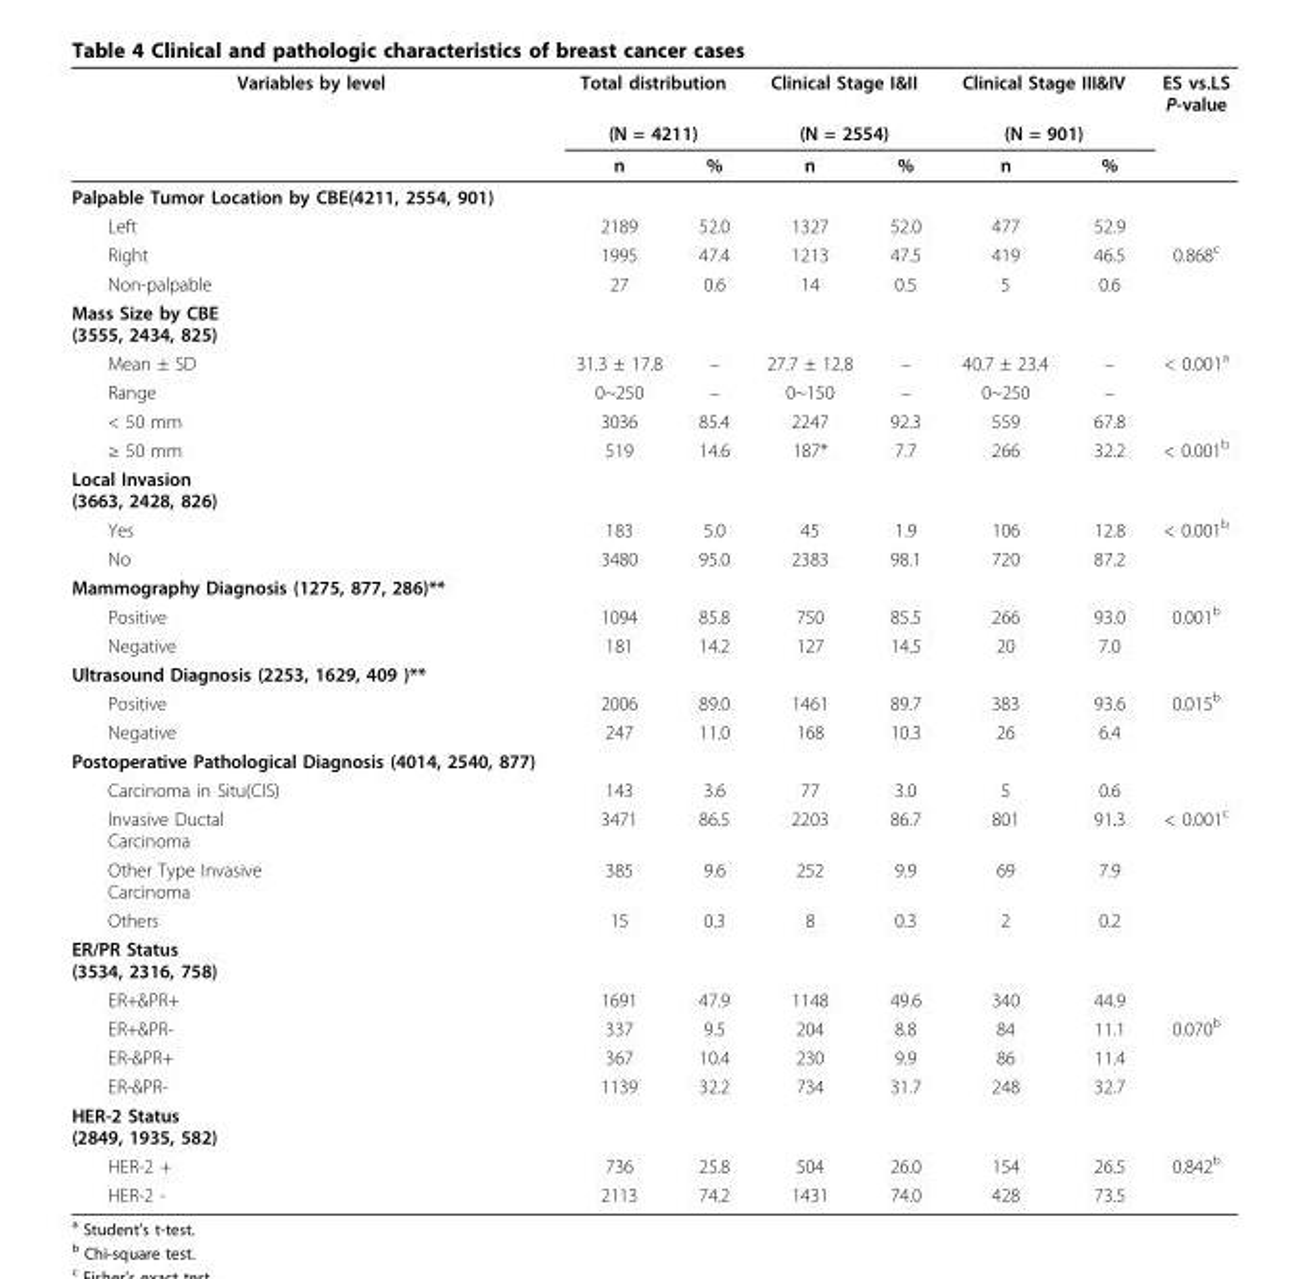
<table><thead><tr><td rowspan="3">Variables by level</td><td rowspan="2" colspan="2">Total distribution (N = 4211)</td><td rowspan="2" colspan="2">Clinical Stage I&amp;II (N = 2554)</td><td rowspan="2" colspan="2">Clinical Stage III&amp;IV (N = 901)</td><td rowspan="3">ES vs.LS P-value</td></tr><tr></tr><tr><td>n</td><td>%</td><td>n</td><td>%</td><td>n</td><td>%</td></tr></thead><tbody><tr><td colspan="8">Palpable Tumor Location by CBE(4211, 2554, 901)</td></tr><tr><td>Left</td><td>2189</td><td>52.0</td><td>1327</td><td>52.0</td><td>477</td><td>52.9</td><td></td></tr><tr><td>Right</td><td>1995</td><td>47.4</td><td>1213</td><td>47.5</td><td>419</td><td>46.5</td><td>0.868<sup>c</sup></td></tr><tr><td>Non-palpable</td><td>27</td><td>0.6</td><td>14</td><td>0.5</td><td>5</td><td>0.6</td><td></td></tr><tr><td colspan="8">Mass Size by CBE (3555, 2434, 825)</td></tr><tr><td>Mean ± SD</td><td>31.3 ± 17.8</td><td>–</td><td>27.7 ± 12.8</td><td>–</td><td>40.7 ± 23.4</td><td>–</td><td>&lt; 0.001<sup>a</sup></td></tr><tr><td>Range</td><td>0~250</td><td>–</td><td>0~150</td><td>–</td><td>0~250</td><td>–</td><td></td></tr><tr><td>&lt; 50 mm</td><td>3036</td><td>85.4</td><td>2247</td><td>92.3</td><td>559</td><td>67.8</td><td></td></tr><tr><td>≥ 50 mm</td><td>519</td><td>14.6</td><td>187*</td><td>7.7</td><td>266</td><td>32.2</td><td>&lt; 0.001<sup>b</sup></td></tr><tr><td colspan="8">Local Invasion (3663, 2428, 826)</td></tr><tr><td>Yes</td><td>183</td><td>5.0</td><td>45</td><td>1.9</td><td>106</td><td>12.8</td><td>&lt; 0.001<sup>b</sup></td></tr><tr><td>No</td><td>3480</td><td>95.0</td><td>2383</td><td>98.1</td><td>720</td><td>87.2</td><td></td></tr><tr><td colspan="8">Mammography Diagnosis (1275, 877, 286)**</td></tr><tr><td>Positive</td><td>1094</td><td>85.8</td><td>750</td><td>85.5</td><td>266</td><td>93.0</td><td>0.001<sup>b</sup></td></tr><tr><td>Negative</td><td>181</td><td>14.2</td><td>127</td><td>14.5</td><td>20</td><td>7.0</td><td></td></tr><tr><td colspan="8">Ultrasound Diagnosis (2253, 1629, 409 )**</td></tr><tr><td>Positive</td><td>2006</td><td>89.0</td><td>1461</td><td>89.7</td><td>383</td><td>93.6</td><td>0.015<sup>b</sup></td></tr><tr><td>Negative</td><td>247</td><td>11.0</td><td>168</td><td>10.3</td><td>26</td><td>6.4</td><td></td></tr><tr><td colspan="8">Postoperative Pathological Diagnosis (4014, 2540, 877)</td></tr><tr><td>Carcinoma in Situ(CIS)</td><td>143</td><td>3.6</td><td>77</td><td>3.0</td><td>5</td><td>0.6</td><td></td></tr><tr><td>Invasive Ductal Carcinoma</td><td>3471</td><td>86.5</td><td>2203</td><td>86.7</td><td>801</td><td>91.3</td><td>&lt; 0.001<sup>c</sup></td></tr><tr><td>Other Type Invasive Carcinoma</td><td>385</td><td>9.6</td><td>252</td><td>9.9</td><td>69</td><td>7.9</td><td></td></tr><tr><td>Others</td><td>15</td><td>0.3</td><td>8</td><td>0.3</td><td>2</td><td>0.2</td><td></td></tr><tr><td colspan="8">ER/PR Status (3534, 2316, 758)</td></tr><tr><td>ER+&amp;PR+</td><td>1691</td><td>47.9</td><td>1148</td><td>49.6</td><td>340</td><td>44.9</td><td></td></tr><tr><td>ER+&amp;PR-</td><td>337</td><td>9.5</td><td>204</td><td>8.8</td><td>84</td><td>11.1</td><td>0.070<sup>b</sup></td></tr><tr><td>ER-&amp;PR+</td><td>367</td><td>10.4</td><td>230</td><td>9.9</td><td>86</td><td>11.4</td><td></td></tr><tr><td>ER-&amp;PR-</td><td>1139</td><td>32.2</td><td>734</td><td>31.7</td><td>248</td><td>32.7</td><td></td></tr><tr><td colspan="8">HER-2 Status (2849, 1935, 582)</td></tr><tr><td>HER-2 +</td><td>736</td><td>25.8</td><td>504</td><td>26.0</td><td>154</td><td>26.5</td><td>0.842<sup>b</sup></td></tr><tr><td>HER-2 -</td><td>2113</td><td>74.2</td><td>1431</td><td>74.0</td><td>428</td><td>73.5</td><td></td></tr></tbody></table>